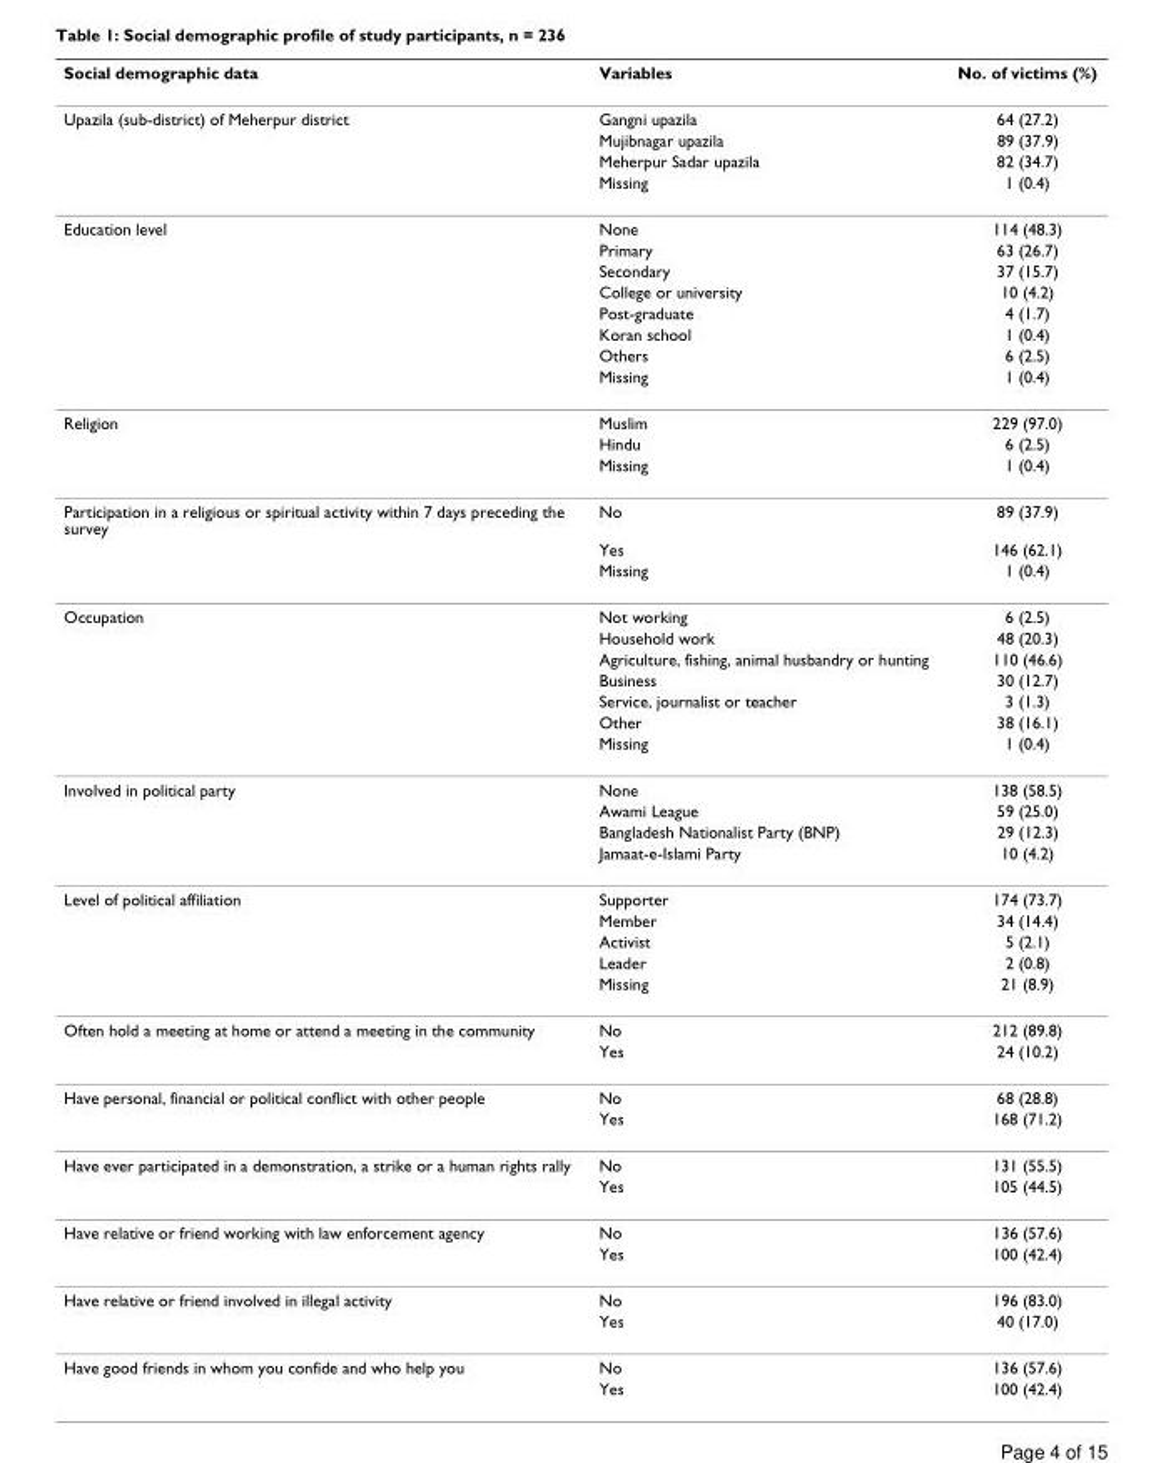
<table><thead><tr><td>Social demographic data</td><td>Variables</td><td>No. of victims (%)</td></tr></thead><tbody><tr><td rowspan="4">Upazila (sub-district) of Meherpur district</td><td>Gangni upazila</td><td>64 (27.2)</td></tr><tr><td>Mujibnagar upazila</td><td>89 (37.9)</td></tr><tr><td>Meherpur Sadar upazila</td><td>82 (34.7)</td></tr><tr><td>Missing</td><td>1 (0.4)</td></tr><tr><td rowspan="8">Education level</td><td>None</td><td>114 (48.3)</td></tr><tr><td>Primary</td><td>63 (26.7)</td></tr><tr><td>Secondary</td><td>37 (15.7)</td></tr><tr><td>College or university</td><td>10 (4.2)</td></tr><tr><td>Post-graduate</td><td>4 (1.7)</td></tr><tr><td>Koran school</td><td>1 (0.4)</td></tr><tr><td>Others</td><td>6 (2.5)</td></tr><tr><td>Missing</td><td>1 (0.4)</td></tr><tr><td rowspan="3">Religion</td><td>Muslim</td><td>229 (97.0)</td></tr><tr><td>Hindu</td><td>6 (2.5)</td></tr><tr><td>Missing</td><td>1 (0.4)</td></tr><tr><td rowspan="3">Participation in a religious or spiritual activity within 7 days preceding the survey</td><td>No</td><td>89 (37.9)</td></tr><tr><td>Yes</td><td>146 (62.1)</td></tr><tr><td>Missing</td><td>1 (0.4)</td></tr><tr><td rowspan="7">Occupation</td><td>Not working</td><td>6 (2.5)</td></tr><tr><td>Household work</td><td>48 (20.3)</td></tr><tr><td>Agriculture, fishing, animal husbandry or hunting</td><td>110 (46.6)</td></tr><tr><td>Business</td><td>30 (12.7)</td></tr><tr><td>Service, journalist or teacher</td><td>3 (1.3)</td></tr><tr><td>Other</td><td>38 (16.1)</td></tr><tr><td>Missing</td><td>1 (0.4)</td></tr><tr><td rowspan="4">Involved in political party</td><td>None</td><td>138 (58.5)</td></tr><tr><td>Awami League</td><td>59 (25.0)</td></tr><tr><td>Bangladesh Nationalist Party (BNP)</td><td>29 (12.3)</td></tr><tr><td>Jamaat-e-Islami Party</td><td>10 (4.2)</td></tr><tr><td rowspan="5">Level of political affiliation</td><td>Supporter</td><td>174 (73.7)</td></tr><tr><td>Member</td><td>34 (14.4)</td></tr><tr><td>Activist</td><td>5 (2.1)</td></tr><tr><td>Leader</td><td>2 (0.8)</td></tr><tr><td>Missing</td><td>21 (8.9)</td></tr><tr><td rowspan="2">Often hold a meeting at home or attend a meeting in the community</td><td>No</td><td>212 (89.8)</td></tr><tr><td>Yes</td><td>24 (10.2)</td></tr><tr><td rowspan="2">Have personal, financial or political conflict with other people</td><td>No</td><td>68 (28.8)</td></tr><tr><td>Yes</td><td>168 (71.2)</td></tr><tr><td rowspan="2">Have ever participated in a demonstration, a strike or a human rights rally</td><td>No</td><td>131 (55.5)</td></tr><tr><td>Yes</td><td>105 (44.5)</td></tr><tr><td rowspan="2">Have relative or friend working with law enforcement agency</td><td>No</td><td>136 (57.6)</td></tr><tr><td>Yes</td><td>100 (42.4)</td></tr><tr><td rowspan="2">Have relative or friend involved in illegal activity</td><td>No</td><td>196 (83.0)</td></tr><tr><td>Yes</td><td>40 (17.0)</td></tr><tr><td rowspan="2">Have good friends in whom you confide and who help you</td><td>No</td><td>136 (57.6)</td></tr><tr><td>Yes</td><td>100 (42.4)</td></tr></tbody></table>